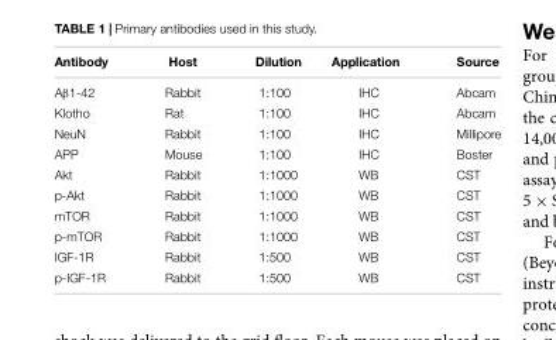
<table><thead><tr><td>Antibody</td><td>Host</td><td>Dilution</td><td>Application</td><td>Source</td></tr></thead><tbody><tr><td>Aβ1-42</td><td>Rabbit</td><td>1:100</td><td>IHC</td><td>Abcam</td></tr><tr><td>Klotho</td><td>Rat</td><td>1:100</td><td>IHC</td><td>Abcam</td></tr><tr><td>NeuN</td><td>Rabbit</td><td>1:100</td><td>IHC</td><td>Millipore</td></tr><tr><td>APP</td><td>Mouse</td><td>1:100</td><td>IHC</td><td>Boster</td></tr><tr><td>Akt</td><td>Rabbit</td><td>1:1000</td><td>WB</td><td>CST</td></tr><tr><td>p-Akt</td><td>Rabbit</td><td>1:1000</td><td>WB</td><td>CST</td></tr><tr><td>mTOR</td><td>Rabbit</td><td>1:1000</td><td>WB</td><td>CST</td></tr><tr><td>p-mTOR</td><td>Rabbit</td><td>1:1000</td><td>WB</td><td>CST</td></tr><tr><td>IGF-1R</td><td>Rabbit</td><td>1:500</td><td>WB</td><td>CST</td></tr><tr><td>p-IGF-1R</td><td>Rabbit</td><td>1:500</td><td>WB</td><td>CST</td></tr></tbody></table>